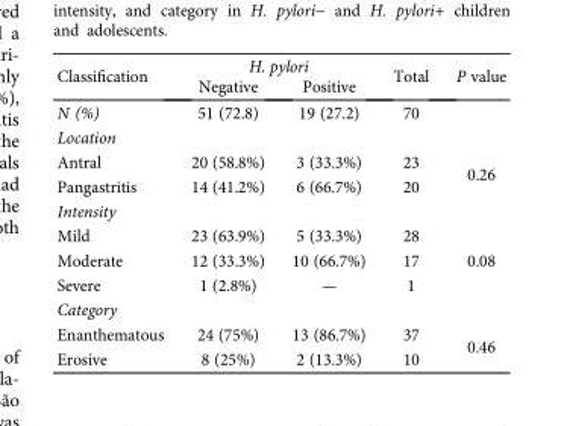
<table><thead><tr><td rowspan="2">Classification</td><td colspan="2">H. pylori</td><td rowspan="2">Total</td><td rowspan="2">P value</td></tr><tr><td>Negative</td><td>Positive</td></tr></thead><tbody><tr><td>N (%)</td><td>51 (72.8)</td><td>19 (27.2)</td><td>70</td><td></td></tr><tr><td colspan="5">Location</td></tr><tr><td>Antral</td><td>20 (58.8%)</td><td>3 (33.3%)</td><td>23</td><td rowspan="2">0.26</td></tr><tr><td>Pangastritis</td><td>14 (41.2%)</td><td>6 (66.7%)</td><td>20</td></tr><tr><td colspan="5">Intensity</td></tr><tr><td>Mild</td><td>23 (63.9%)</td><td>5 (33.3%)</td><td>28</td><td rowspan="3">0.08</td></tr><tr><td>Moderate</td><td>12 (33.3%)</td><td>10 (66.7%)</td><td>17</td></tr><tr><td>Severe</td><td>1 (2.8%)</td><td>—</td><td>1</td></tr><tr><td colspan="5">Category</td></tr><tr><td>Enanthematous</td><td>24 (75%)</td><td>13 (86.7%)</td><td>37</td><td rowspan="2">0.46</td></tr><tr><td>Erosive</td><td>8 (25%)</td><td>2 (13.3%)</td><td>10</td></tr></tbody></table>